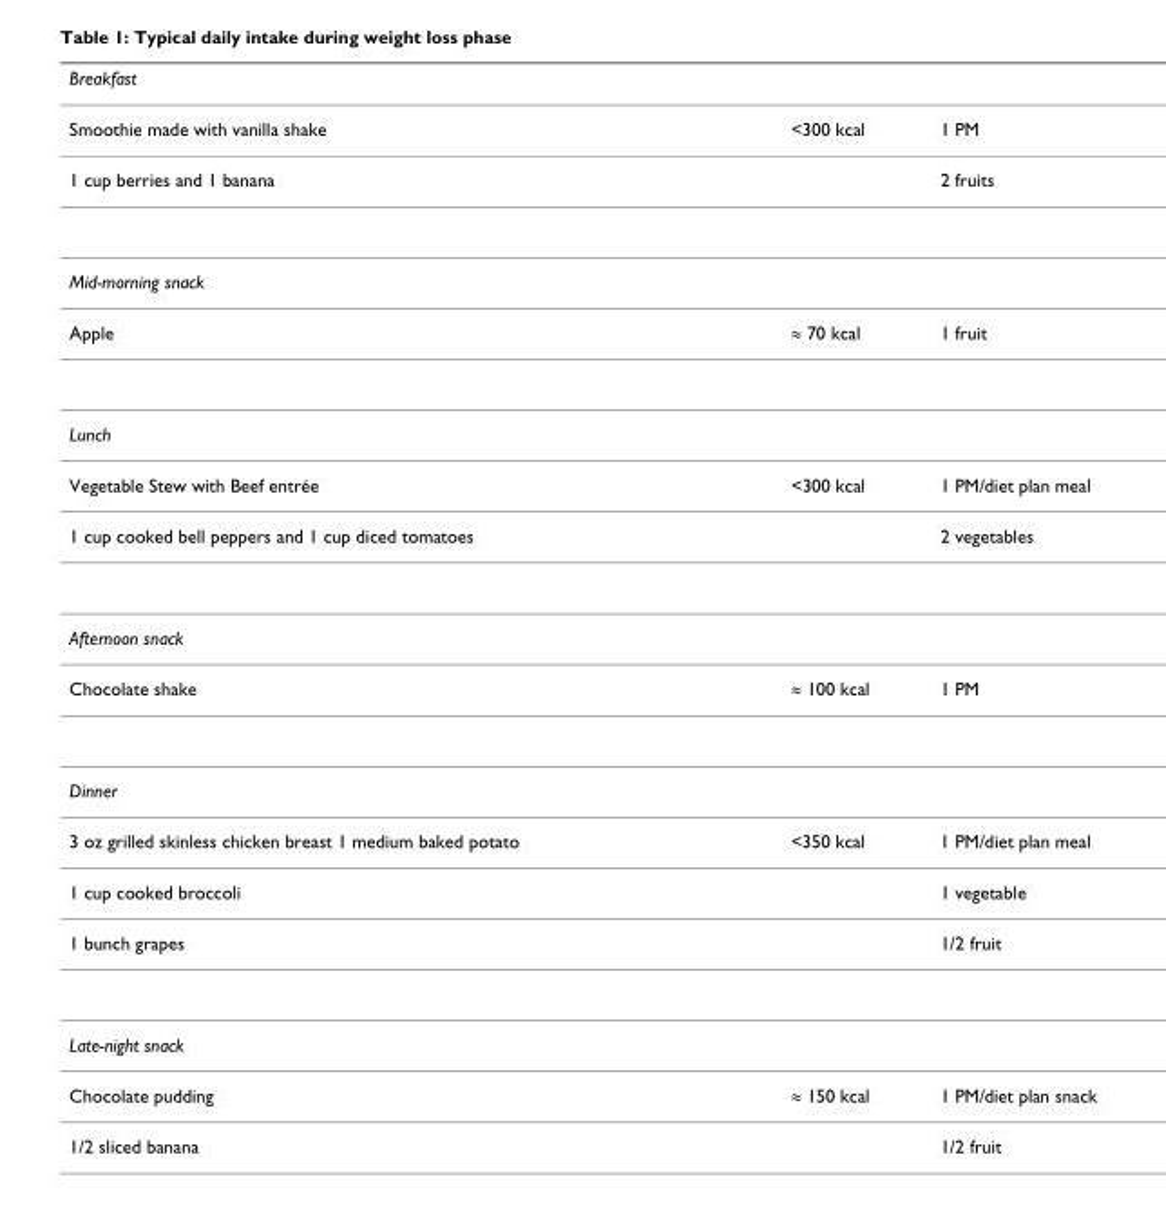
<table><thead><tr><td>Breakfast</td><td></td><td></td></tr></thead><tbody><tr><td>Smoothie made with vanilla shake</td><td>&lt;300 kcal</td><td>1 PM</td></tr><tr><td>1 cup berries and 1 banana</td><td></td><td>2 fruits</td></tr><tr><td colspan="3">Mid-morning snack</td></tr><tr><td>Apple</td><td>≈ 70 kcal</td><td>1 fruit</td></tr><tr><td colspan="3">Lunch</td></tr><tr><td>Vegetable Stew with Beef entrée</td><td>&lt;300 kcal</td><td>1 PM/diet plan meal</td></tr><tr><td>1 cup cooked bell peppers and 1 cup diced tomatoes</td><td></td><td>2 vegetables</td></tr><tr><td colspan="3">Afternoon snack</td></tr><tr><td>Chocolate shake</td><td>≈ 100 kcal</td><td>1 PM</td></tr><tr><td colspan="3">Dinner</td></tr><tr><td>3 oz grilled skinless chicken breast 1 medium baked potato</td><td>&lt;350 kcal</td><td>1 PM/diet plan meal</td></tr><tr><td>1 cup cooked broccoli</td><td></td><td>1 vegetable</td></tr><tr><td>1 bunch grapes</td><td></td><td>1/2 fruit</td></tr><tr><td colspan="3">Late-night snack</td></tr><tr><td>Chocolate pudding</td><td>≈ 150 kcal</td><td>1 PM/diet plan snack</td></tr><tr><td>1/2 sliced banana</td><td></td><td>1/2 fruit</td></tr></tbody></table>